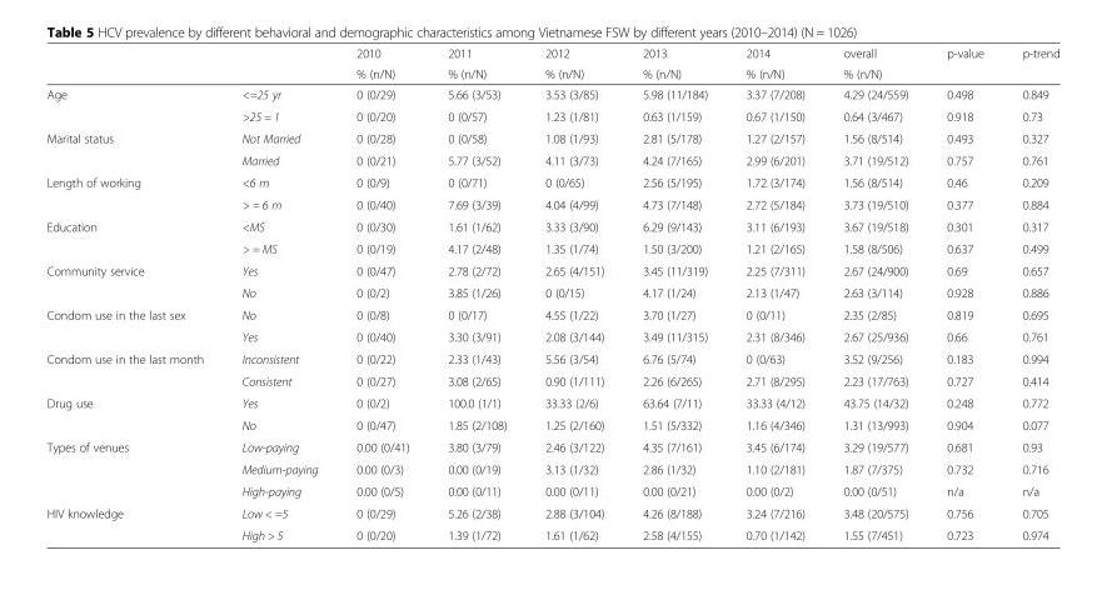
<table><thead><tr><td rowspan="2"></td><td rowspan="2"></td><td rowspan="2">2010 % (n/N)</td><td rowspan="2">2011 % (n/N)</td><td rowspan="2">2012 % (n/N)</td><td rowspan="2">2013 % (n/N)</td><td rowspan="2">2014 % (n/N)</td><td rowspan="2">overall % (n/N)</td><td rowspan="2">p-value</td><td rowspan="2">p-trend</td></tr><tr></tr></thead><tbody><tr><td rowspan="2">Age</td><td>&lt;=25 yr</td><td>0 (0/29)</td><td>5.66 (3/53)</td><td>3.53 (3/85)</td><td>5.98 (11/184)</td><td>3.37 (7/208)</td><td>4.29 (24/559)</td><td>0.498</td><td>0.849</td></tr><tr><td>&gt;25 = 1</td><td>0 (0/20)</td><td>0 (0/57)</td><td>1.23 (1/81)</td><td>0.63 (1/159)</td><td>0.67 (1/150)</td><td>0.64 (3/467)</td><td>0.918</td><td>0.73</td></tr><tr><td rowspan="2">Marital status</td><td>Not Married</td><td>0 (0/28)</td><td>0 (0/58)</td><td>1.08 (1/93)</td><td>2.81 (5/178)</td><td>1.27 (2/157)</td><td>1.56 (8/514)</td><td>0.493</td><td>0.327</td></tr><tr><td>Married</td><td>0 (0/21)</td><td>5.77 (3/52)</td><td>4.11 (3/73)</td><td>4.24 (7/165)</td><td>2.99 (6/201)</td><td>3.71 (19/512)</td><td>0.757</td><td>0.761</td></tr><tr><td rowspan="2">Length of working</td><td>&lt;6 m</td><td>0 (0/9)</td><td>0 (0/71)</td><td>0 (0/65)</td><td>2.56 (5/195)</td><td>1.72 (3/174)</td><td>1.56 (8/514)</td><td>0.46</td><td>0.209</td></tr><tr><td>&gt; = 6 m</td><td>0 (0/40)</td><td>7.69 (3/39)</td><td>4.04 (4/99)</td><td>4.73 (7/148)</td><td>2.72 (5/184)</td><td>3.73 (19/510)</td><td>0.377</td><td>0.884</td></tr><tr><td rowspan="2">Education</td><td>&lt;MS</td><td>0 (0/30)</td><td>1.61 (1/62)</td><td>3.33 (3/90)</td><td>6.29 (9/143)</td><td>3.11 (6/193)</td><td>3.67 (19/518)</td><td>0.301</td><td>0.317</td></tr><tr><td>&gt; = MS</td><td>0 (0/19)</td><td>4.17 (2/48)</td><td>1.35 (1/74)</td><td>1.50 (3/200)</td><td>1.21 (2/165)</td><td>1.58 (8/506)</td><td>0.637</td><td>0.499</td></tr><tr><td rowspan="2">Community service</td><td>Yes</td><td>0 (0/47)</td><td>2.78 (2/72)</td><td>2.65 (4/151)</td><td>3.45 (11/319)</td><td>2.25 (7/311)</td><td>2.67 (24/900)</td><td>0.69</td><td>0.657</td></tr><tr><td>No</td><td>0 (0/2)</td><td>3.85 (1/26)</td><td>0 (0/15)</td><td>4.17 (1/24)</td><td>2.13 (1/47)</td><td>2.63 (3/114)</td><td>0.928</td><td>0.886</td></tr><tr><td rowspan="2">Condom use in the last sex</td><td>No</td><td>0 (0/8)</td><td>0 (0/17)</td><td>4.55 (1/22)</td><td>3.70 (1/27)</td><td>0 (0/11)</td><td>2.35 (2/85)</td><td>0.819</td><td>0.695</td></tr><tr><td>Yes</td><td>0 (0/40)</td><td>3.30 (3/91)</td><td>2.08 (3/144)</td><td>3.49 (11/315)</td><td>2.31 (8/346)</td><td>2.67 (25/936)</td><td>0.66</td><td>0.761</td></tr><tr><td rowspan="2">Condom use in the last month</td><td>Inconsistent</td><td>0 (0/22)</td><td>2.33 (1/43)</td><td>5.56 (3/54)</td><td>6.76 (5/74)</td><td>0 (0/63)</td><td>3.52 (9/256)</td><td>0.183</td><td>0.994</td></tr><tr><td>Consistent</td><td>0 (0/27)</td><td>3.08 (2/65)</td><td>0.90 (1/111)</td><td>2.26 (6/265)</td><td>2.71 (8/295)</td><td>2.23 (17/763)</td><td>0.727</td><td>0.414</td></tr><tr><td rowspan="2">Drug use</td><td>Yes</td><td>0 (0/2)</td><td>100.0 (1/1)</td><td>33.33 (2/6)</td><td>63.64 (7/11)</td><td>33.33 (4/12)</td><td>43.75 (14/32)</td><td>0.248</td><td>0.772</td></tr><tr><td>No</td><td>0 (0/47)</td><td>1.85 (2/108)</td><td>1.25 (2/160)</td><td>1.51 (5/332)</td><td>1.16 (4/346)</td><td>1.31 (13/993)</td><td>0.904</td><td>0.077</td></tr><tr><td rowspan="3">Types of venues</td><td>Low-paying</td><td>0.00 (0/41)</td><td>3.80 (3/79)</td><td>2.46 (3/122)</td><td>4.35 (7/161)</td><td>3.45 (6/174)</td><td>3.29 (19/577)</td><td>0.681</td><td>0.93</td></tr><tr><td>Medium-paying</td><td>0.00 (0/3)</td><td>0.00 (0/19)</td><td>3.13 (1/32)</td><td>2.86 (1/32)</td><td>1.10 (2/181)</td><td>1.87 (7/375)</td><td>0.732</td><td>0.716</td></tr><tr><td>High-paying</td><td>0.00 (0/5)</td><td>0.00 (0/11)</td><td>0.00 (0/11)</td><td>0.00 (0/21)</td><td>0.00 (0/2)</td><td>0.00 (0/51)</td><td>n/a</td><td>n/a</td></tr><tr><td rowspan="2">HIV knowledge</td><td>Low &lt; =5</td><td>0 (0/29)</td><td>5.26 (2/38)</td><td>2.88 (3/104)</td><td>4.26 (8/188)</td><td>3.24 (7/216)</td><td>3.48 (20/575)</td><td>0.756</td><td>0.705</td></tr><tr><td>High &gt; 5</td><td>0 (0/20)</td><td>1.39 (1/72)</td><td>1.61 (1/62)</td><td>2.58 (4/155)</td><td>0.70 (1/142)</td><td>1.55 (7/451)</td><td>0.723</td><td>0.974</td></tr></tbody></table>